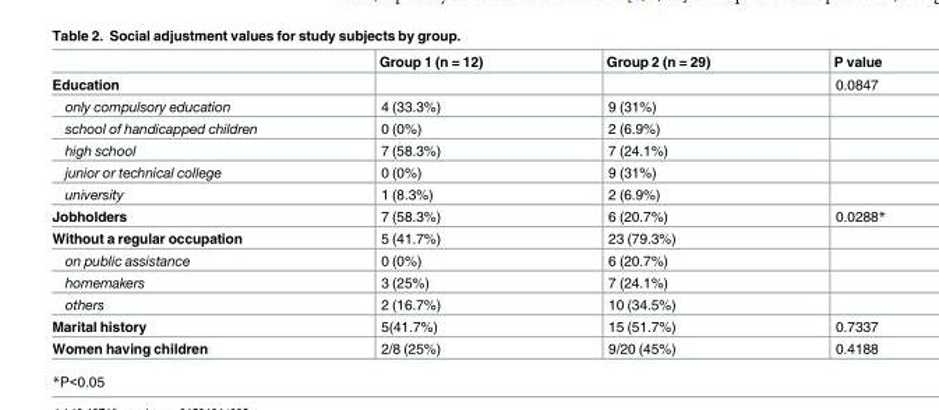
<table><thead><tr><td></td><td>Group 1 (n = 12)</td><td>Group 2 (n = 29)</td><td>P value</td></tr></thead><tbody><tr><td>Education</td><td></td><td></td><td>0.0847</td></tr><tr><td>only compulsory education</td><td>4 (33.3%)</td><td>9 (31%)</td><td></td></tr><tr><td>school of handicapped children</td><td>0 (0%)</td><td>2 (6.9%)</td><td></td></tr><tr><td>high school</td><td>7 (58.3%)</td><td>7 (24.1%)</td><td></td></tr><tr><td>junior or technical college</td><td>0 (0%)</td><td>9 (31%)</td><td></td></tr><tr><td>university</td><td>1 (8.3%)</td><td>2 (6.9%)</td><td></td></tr><tr><td>Jobholders</td><td>7 (58.3%)</td><td>6 (20.7%)</td><td>0.0288*</td></tr><tr><td>Without a regular occupation</td><td>5 (41.7%)</td><td>23 (79.3%)</td><td></td></tr><tr><td>on public assistance</td><td>0 (0%)</td><td>6 (20.7%)</td><td></td></tr><tr><td>homemakers</td><td>3 (25%)</td><td>7 (24.1%)</td><td></td></tr><tr><td>others</td><td>2 (16.7%)</td><td>10 (34.5%)</td><td></td></tr><tr><td>Marital history</td><td>5(41.7%)</td><td>15 (51.7%)</td><td>0.7337</td></tr><tr><td>Women having children</td><td>2/8 (25%)</td><td>9/20 (45%)</td><td>0.4188</td></tr></tbody></table>